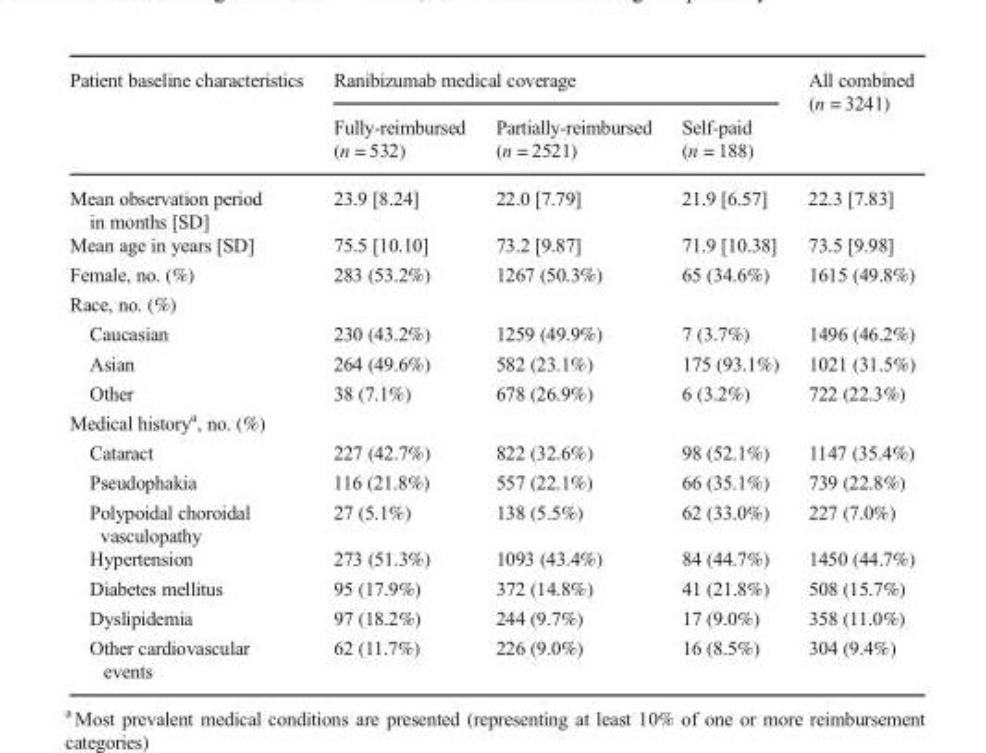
<table><thead><tr><td rowspan="2">Patient baseline characteristics</td><td colspan="3">Ranibizumab medical coverage</td><td rowspan="2">All combined (n = 3241)</td></tr><tr><td>Fully-reimbursed (n = 532)</td><td>Partially-reimbursed (n = 2521)</td><td>Self-paid (n = 188)</td></tr></thead><tbody><tr><td>Mean observation period in months [SD]</td><td>23.9 [8.24]</td><td>22.0 [7.79]</td><td>21.9 [6.57]</td><td>22.3 [7.83]</td></tr><tr><td>Mean age in years [SD]</td><td>75.5 [10.10]</td><td>73.2 [9.87]</td><td>71.9 [10.38]</td><td>73.5 [9.98]</td></tr><tr><td>Female, no. (%)</td><td>283 (53.2%)</td><td>1267 (50.3%)</td><td>65 (34.6%)</td><td>1615 (49.8%)</td></tr><tr><td colspan="5">Race, no. (%)</td></tr><tr><td>Caucasian</td><td>230 (43.2%)</td><td>1259 (49.9%)</td><td>7 (3.7%)</td><td>1496 (46.2%)</td></tr><tr><td>Asian</td><td>264 (49.6%)</td><td>582 (23.1%)</td><td>175 (93.1%)</td><td>1021 (31.5%)</td></tr><tr><td>Other</td><td>38 (7.1%)</td><td>678 (26.9%)</td><td>6 (3.2%)</td><td>722 (22.3%)</td></tr><tr><td colspan="5">Medical history<sup>a</sup>, no. (%)</td></tr><tr><td>Cataract</td><td>227 (42.7%)</td><td>822 (32.6%)</td><td>98 (52.1%)</td><td>1147 (35.4%)</td></tr><tr><td>Pseudophakia</td><td>116 (21.8%)</td><td>557 (22.1%)</td><td>66 (35.1%)</td><td>739 (22.8%)</td></tr><tr><td>Polypoidal choroidal vasculopathy</td><td>27 (5.1%)</td><td>138 (5.5%)</td><td>62 (33.0%)</td><td>227 (7.0%)</td></tr><tr><td>Hypertension</td><td>273 (51.3%)</td><td>1093 (43.4%)</td><td>84 (44.7%)</td><td>1450 (44.7%)</td></tr><tr><td>Diabetes mellitus</td><td>95 (17.9%)</td><td>372 (14.8%)</td><td>41 (21.8%)</td><td>508 (15.7%)</td></tr><tr><td>Dyslipidemia</td><td>97 (18.2%)</td><td>244 (9.7%)</td><td>17 (9.0%)</td><td>358 (11.0%)</td></tr><tr><td>Other cardiovascular events</td><td>62 (11.7%)</td><td>226 (9.0%)</td><td>16 (8.5%)</td><td>304 (9.4%)</td></tr></tbody></table>